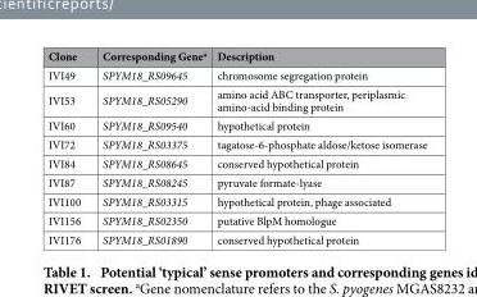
<table><thead><tr><td>Clone</td><td>Corresponding Gene<sup>a</sup></td><td>Description</td></tr></thead><tbody><tr><td>IVI49</td><td>SPYM18_RS09645</td><td>chromosome segregation protein</td></tr><tr><td>IVI53</td><td>SPYM18_RS05290</td><td>amino acid ABC transporter, periplasmic amino-acid binding protein</td></tr><tr><td>IVI60</td><td>SPYM18_RS09540</td><td>hypothetical protein</td></tr><tr><td>IVI72</td><td>SPYM18_RS03375</td><td>tagatose-6-phosphate aldose/ketose isomerase</td></tr><tr><td>IVI84</td><td>SPYM18_RS08645</td><td>conserved hypothetical protein</td></tr><tr><td>IVI87</td><td>SPYM18_RS08245</td><td>pyruvate formate-lyase</td></tr><tr><td>IVI100</td><td>SPYM18_RS03315</td><td>hypothetical protein, phage associated</td></tr><tr><td>IVI156</td><td>SPYM18_RS02350</td><td>putative BlpM homologue</td></tr><tr><td>IVI176</td><td>SPYM18_RS01890</td><td>conserved hypothetical protein</td></tr></tbody></table>